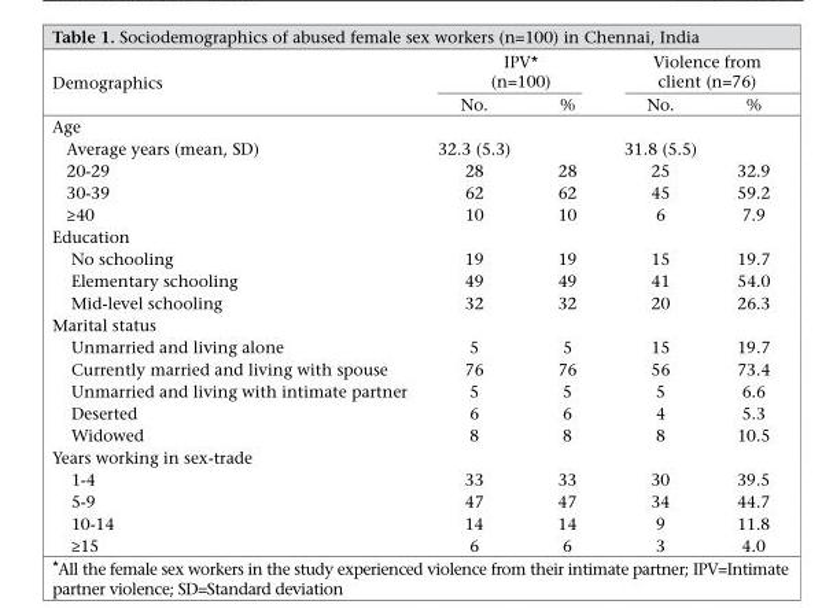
<table><thead><tr><td rowspan="2">Demographics</td><td colspan="2">IPV* (n=100)</td><td colspan="2">Violence from client (n=76)</td></tr><tr><td>No.</td><td>%</td><td>No.</td><td>%</td></tr></thead><tbody><tr><td colspan="5">Age</td></tr><tr><td>Average years (mean, SD)</td><td>32.3 (5.3)</td><td></td><td>31.8 (5.5)</td><td></td></tr><tr><td>20-29</td><td>28</td><td>28</td><td>25</td><td>32.9</td></tr><tr><td>30-39</td><td>62</td><td>62</td><td>45</td><td>59.2</td></tr><tr><td>≥40</td><td>10</td><td>10</td><td>6</td><td>7.9</td></tr><tr><td colspan="5">Education</td></tr><tr><td>No schooling</td><td>19</td><td>19</td><td>15</td><td>19.7</td></tr><tr><td>Elementary schooling</td><td>49</td><td>49</td><td>41</td><td>54.0</td></tr><tr><td>Mid-level schooling</td><td>32</td><td>32</td><td>20</td><td>26.3</td></tr><tr><td colspan="5">Marital status</td></tr><tr><td>Unmarried and living alone</td><td>5</td><td>5</td><td>15</td><td>19.7</td></tr><tr><td>Currently married and living with spouse</td><td>76</td><td>76</td><td>56</td><td>73.4</td></tr><tr><td>Unmarried and living with intimate partner</td><td>5</td><td>5</td><td>5</td><td>6.6</td></tr><tr><td>Deserted</td><td>6</td><td>6</td><td>4</td><td>5.3</td></tr><tr><td>Widowed</td><td>8</td><td>8</td><td>8</td><td>10.5</td></tr><tr><td colspan="5">Years working in sex-trade</td></tr><tr><td>1-4</td><td>33</td><td>33</td><td>30</td><td>39.5</td></tr><tr><td>5-9</td><td>47</td><td>47</td><td>34</td><td>44.7</td></tr><tr><td>10-14</td><td>14</td><td>14</td><td>9</td><td>11.8</td></tr><tr><td>≥15</td><td>6</td><td>6</td><td>3</td><td>4.0</td></tr></tbody></table>